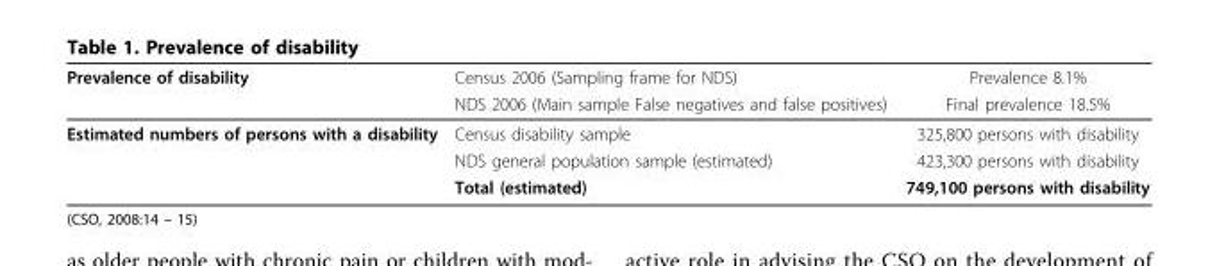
<table><thead><tr><td rowspan="2">Prevalence of disability</td><td rowspan="2">Census 2006 (Sampling frame for NDS) NDS 2006 (Main sample False negatives and false positives)</td><td rowspan="2">Prevalence 8.1% Final prevalence 18.5%</td></tr><tr></tr></thead><tbody><tr><td rowspan="3">Estimated numbers of persons with a disability</td><td>Census disability sample</td><td>325,800 persons with disability</td></tr><tr><td>NDS general population sample (estimated)</td><td>423,300 persons with disability</td></tr><tr><td>Total (estimated)</td><td>749,100 persons with disability</td></tr></tbody></table>